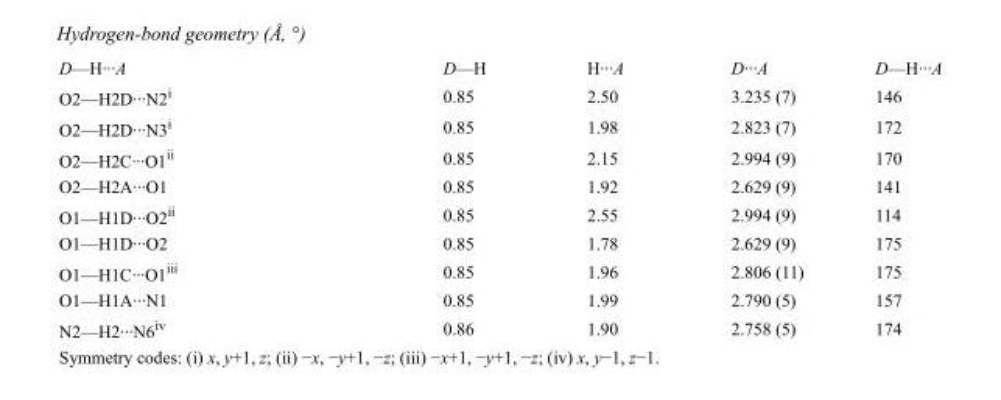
<table><tbody><tr><td>D—H···A</td><td>D—H</td><td>H···A</td><td>D···A</td><td>D—H···A</td></tr><tr><td>O2—H2D···N2<sup>i</sup></td><td>0.85</td><td>2.50</td><td>3.235 (7)</td><td>146</td></tr><tr><td>O2—H2D···N3<sup>i</sup></td><td>0.85</td><td>1.98</td><td>2.823 (7)</td><td>172</td></tr><tr><td>O2—H2C···O1<sup>ii</sup></td><td>0.85</td><td>2.15</td><td>2.994 (9)</td><td>170</td></tr><tr><td>O2—H2A···O1</td><td>0.85</td><td>1.92</td><td>2.629 (9)</td><td>141</td></tr><tr><td>O1—H1D···O2<sup>ii</sup></td><td>0.85</td><td>2.55</td><td>2.994 (9)</td><td>114</td></tr><tr><td>O1—H1D···O2</td><td>0.85</td><td>1.78</td><td>2.629 (9)</td><td>175</td></tr><tr><td>O1—H1C···O1<sup>iii</sup></td><td>0.85</td><td>1.96</td><td>2.806 (11)</td><td>175</td></tr><tr><td>O1—H1A···N1</td><td>0.85</td><td>1.99</td><td>2.790 (5)</td><td>157</td></tr><tr><td>N2—H2···N6<sup>iv</sup></td><td>0.86</td><td>1.90</td><td>2.758 (5)</td><td>174</td></tr></tbody></table>